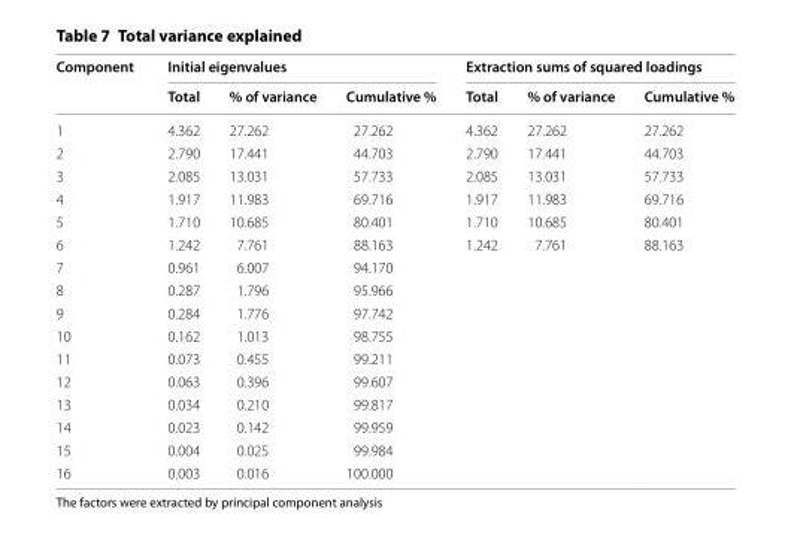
<table><thead><tr><td rowspan="2">Component</td><td colspan="3">Initial eigenvalues</td><td colspan="3">Extraction sums of squared loadings</td></tr><tr><td>Total</td><td>% of variance</td><td>Cumulative %</td><td>Total</td><td>% of variance</td><td>Cumulative %</td></tr></thead><tbody><tr><td>1</td><td>4.362</td><td>27.262</td><td>27.262</td><td>4.362</td><td>27.262</td><td>27.262</td></tr><tr><td>2</td><td>2.790</td><td>17.441</td><td>44.703</td><td>2.790</td><td>17.441</td><td>44.703</td></tr><tr><td>3</td><td>2.085</td><td>13.031</td><td>57.733</td><td>2.085</td><td>13.031</td><td>57.733</td></tr><tr><td>4</td><td>1.917</td><td>11.983</td><td>69.716</td><td>1.917</td><td>11.983</td><td>69.716</td></tr><tr><td>5</td><td>1.710</td><td>10.685</td><td>80.401</td><td>1.710</td><td>10.685</td><td>80.401</td></tr><tr><td>6</td><td>1.242</td><td>7.761</td><td>88.163</td><td>1.242</td><td>7.761</td><td>88.163</td></tr><tr><td>7</td><td>0.961</td><td>6.007</td><td>94.170</td><td></td><td></td><td></td></tr><tr><td>8</td><td>0.287</td><td>1.796</td><td>95.966</td><td></td><td></td><td></td></tr><tr><td>9</td><td>0.284</td><td>1.776</td><td>97.742</td><td></td><td></td><td></td></tr><tr><td>10</td><td>0.162</td><td>1.013</td><td>98.755</td><td></td><td></td><td></td></tr><tr><td>11</td><td>0.073</td><td>0.455</td><td>99.211</td><td></td><td></td><td></td></tr><tr><td>12</td><td>0.063</td><td>0.396</td><td>99.607</td><td></td><td></td><td></td></tr><tr><td>13</td><td>0.034</td><td>0.210</td><td>99.817</td><td></td><td></td><td></td></tr><tr><td>14</td><td>0.023</td><td>0.142</td><td>99.959</td><td></td><td></td><td></td></tr><tr><td>15</td><td>0.004</td><td>0.025</td><td>99.984</td><td></td><td></td><td></td></tr><tr><td>16</td><td>0.003</td><td>0.016</td><td>100.000</td><td></td><td></td><td></td></tr></tbody></table>